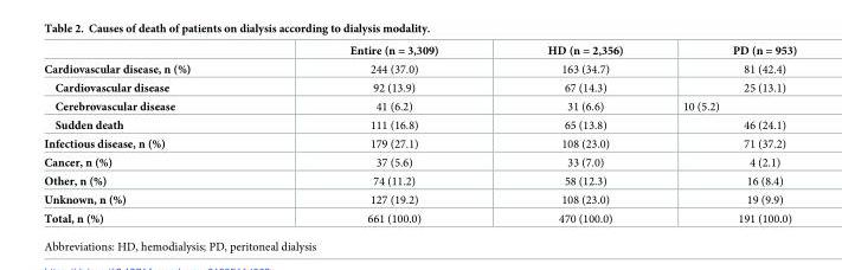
<table><thead><tr><td></td><td>Entire (n = 3,309)</td><td>HD (n = 2,356)</td><td>PD (n = 953)</td></tr></thead><tbody><tr><td>Cardiovascular disease, n (%)</td><td>244 (37.0)</td><td>163 (34.7)</td><td>81 (42.4)</td></tr><tr><td>Cardiovascular disease</td><td>92 (13.9)</td><td>67 (14.3)</td><td>25 (13.1)</td></tr><tr><td>Cerebrovascular disease</td><td>41 (6.2)</td><td>31 (6.6)</td><td>10 (5.2)</td></tr><tr><td>Sudden death</td><td>111 (16.8)</td><td>65 (13.8)</td><td>46 (24.1)</td></tr><tr><td>Infectious disease, n (%)</td><td>179 (27.1)</td><td>108 (23.0)</td><td>71 (37.2)</td></tr><tr><td>Cancer, n (%)</td><td>37 (5.6)</td><td>33 (7.0)</td><td>4 (2.1)</td></tr><tr><td>Other, n (%)</td><td>74 (11.2)</td><td>58 (12.3)</td><td>16 (8.4)</td></tr><tr><td>Unknown, n (%)</td><td>127 (19.2)</td><td>108 (23.0)</td><td>19 (9.9)</td></tr><tr><td>Total, n (%)</td><td>661 (100.0)</td><td>470 (100.0)</td><td>191 (100.0)</td></tr></tbody></table>